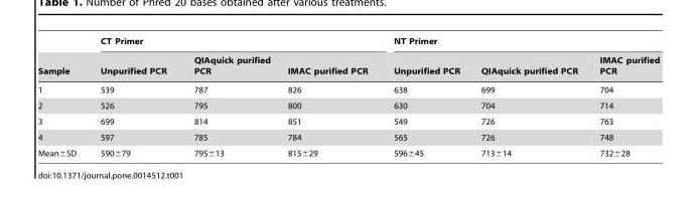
<table><thead><tr><td rowspan="2">Sample</td><td colspan="3">CT Primer</td><td colspan="3">NT Primer</td></tr><tr><td>Unpurified PCR</td><td>QIAquick purified PCR</td><td>IMAC purified PCR</td><td>Unpurified PCR</td><td>QIAquick purified PCR</td><td>IMAC purified PCR</td></tr></thead><tbody><tr><td>1</td><td>539</td><td>787</td><td>826</td><td>638</td><td>699</td><td>704</td></tr><tr><td>2</td><td>526</td><td>795</td><td>800</td><td>630</td><td>704</td><td>714</td></tr><tr><td>3</td><td>699</td><td>814</td><td>851</td><td>549</td><td>726</td><td>763</td></tr><tr><td>4</td><td>597</td><td>785</td><td>784</td><td>565</td><td>726</td><td>748</td></tr><tr><td>Mean±SD</td><td>590±79</td><td>795±13</td><td>815±29</td><td>596±45</td><td>713±14</td><td>732±28</td></tr></tbody></table>